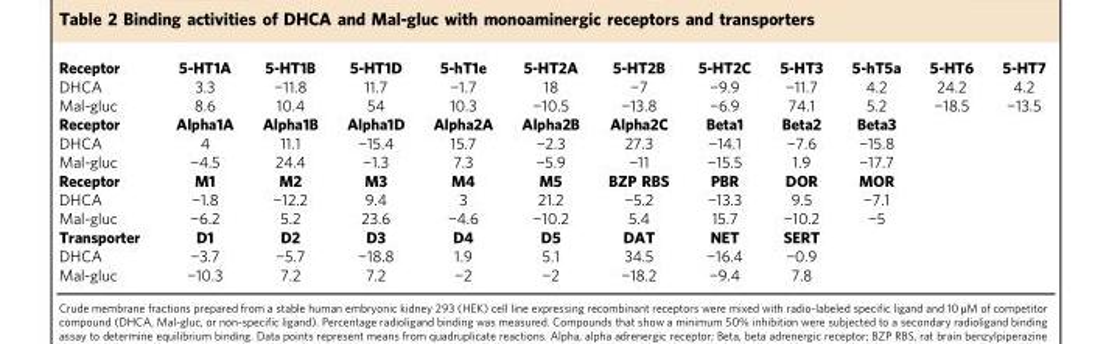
<table><tbody><tr><td>Receptor</td><td>5-HT1A</td><td>5-HT1B</td><td>5-HT1D</td><td>5-hT1e</td><td>5-HT2A</td><td>5-HT2B</td><td>5-HT2C</td><td>5-HT3</td><td>5-hT5a</td><td>5-HT6</td><td>5-HT7</td></tr><tr><td>DHCA</td><td>3.3</td><td>−11.8</td><td>11.7</td><td>−1.7</td><td>18</td><td>−7</td><td>−9.9</td><td>−11.7</td><td>4.2</td><td>24.2</td><td>4.2</td></tr><tr><td>Mal-gluc</td><td>8.6</td><td>10.4</td><td>54</td><td>10.3</td><td>−10.5</td><td>−13.8</td><td>−6.9</td><td>74.1</td><td>5.2</td><td>−18.5</td><td>−13.5</td></tr><tr><td>Receptor</td><td>Alpha1A</td><td>Alpha1B</td><td>Alpha1D</td><td>Alpha2A</td><td>Alpha2B</td><td>Alpha2C</td><td>Beta1</td><td>Beta2</td><td>Beta3</td><td></td><td></td></tr><tr><td>DHCA</td><td>4</td><td>11.1</td><td>−15.4</td><td>15.7</td><td>−2.3</td><td>27.3</td><td>−14.1</td><td>−7.6</td><td>−15.8</td><td></td><td></td></tr><tr><td>Mal-gluc</td><td>−4.5</td><td>24.4</td><td>−1.3</td><td>7.3</td><td>−5.9</td><td>−11</td><td>−15.5</td><td>1.9</td><td>−17.7</td><td></td><td></td></tr><tr><td>Receptor</td><td>M1</td><td>M2</td><td>M3</td><td>M4</td><td>M5</td><td>BZP RBS</td><td>PBR</td><td>DOR</td><td>MOR</td><td></td><td></td></tr><tr><td>DHCA</td><td>−1.8</td><td>−12.2</td><td>9.4</td><td>3</td><td>21.2</td><td>−5.2</td><td>−13.3</td><td>9.5</td><td>−7.1</td><td></td><td></td></tr><tr><td>Mal-gluc</td><td>−6.2</td><td>5.2</td><td>23.6</td><td>−4.6</td><td>−10.2</td><td>5.4</td><td>15.7</td><td>−10.2</td><td>−5</td><td></td><td></td></tr><tr><td>Transporter</td><td>D1</td><td>D2</td><td>D3</td><td>D4</td><td>D5</td><td>DAT</td><td>NET</td><td>SERT</td><td></td><td></td><td></td></tr><tr><td>DHCA</td><td>−3.7</td><td>−5.7</td><td>−18.8</td><td>1.9</td><td>5.1</td><td>34.5</td><td>−16.4</td><td>−0.9</td><td></td><td></td><td></td></tr><tr><td>Mal-gluc</td><td>−10.3</td><td>7.2</td><td>7.2</td><td>−2</td><td>−2</td><td>−18.2</td><td>−9.4</td><td>7.8</td><td></td><td></td><td></td></tr></tbody></table>